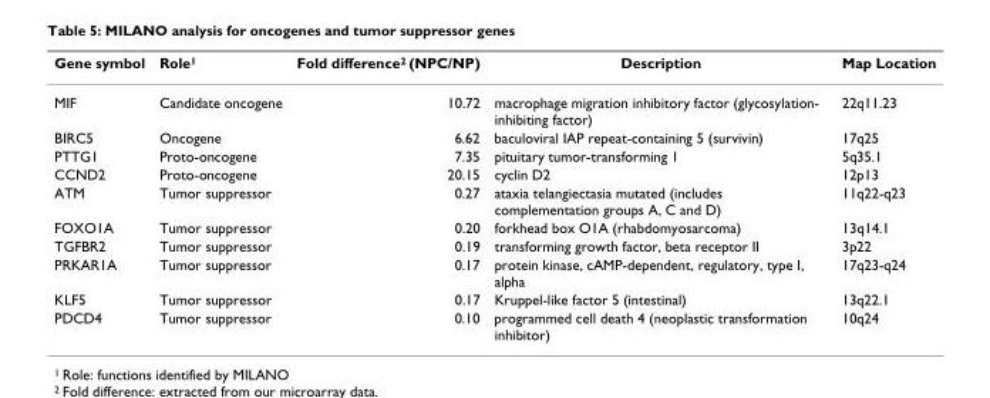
<table><thead><tr><td>Gene symbol</td><td>Role<sup>1</sup></td><td>Fold difference<sup>2</sup> (NPC/NP)</td><td>Description</td><td>Map Location</td></tr></thead><tbody><tr><td>MIF</td><td>Candidate oncogene</td><td>10.72</td><td>macrophage migration inhibitory factor (glycosylation- inhibiting factor)</td><td>22q11.23</td></tr><tr><td>BIRC5</td><td>Oncogene</td><td>6.62</td><td>baculoviral IAP repeat-containing 5 (survivin)</td><td>17q25</td></tr><tr><td>PTTG1</td><td>Proto-oncogene</td><td>7.35</td><td>pituitary tumor-transforming 1</td><td>5q35.1</td></tr><tr><td>CCND2</td><td>Proto-oncogene</td><td>20.15</td><td>cyclin D2</td><td>12p13</td></tr><tr><td>ATM</td><td>Tumor suppressor</td><td>0.27</td><td>ataxia telangiectasia mutated (includes complementation groups A, C and D)</td><td>11q22-q23</td></tr><tr><td>FOXO1A</td><td>Tumor suppressor</td><td>0.20</td><td>forkhead box O1A (rhabdomyosarcoma)</td><td>13q14.1</td></tr><tr><td>TGFBR2</td><td>Tumor suppressor</td><td>0.19</td><td>transforming growth factor, beta receptor II</td><td>3p22</td></tr><tr><td>PRKAR1A</td><td>Tumor suppressor</td><td>0.17</td><td>protein kinase, cAMP-dependent, regulatory, type I, alpha</td><td>17q23-q24</td></tr><tr><td>KLF5</td><td>Tumor suppressor</td><td>0.17</td><td>Kruppel-like factor 5 (intestinal)</td><td>13q22.1</td></tr><tr><td>PDCD4</td><td>Tumor suppressor</td><td>0.10</td><td>programmed cell death 4 (neoplastic transformation inhibitor)</td><td>10q24</td></tr></tbody></table>